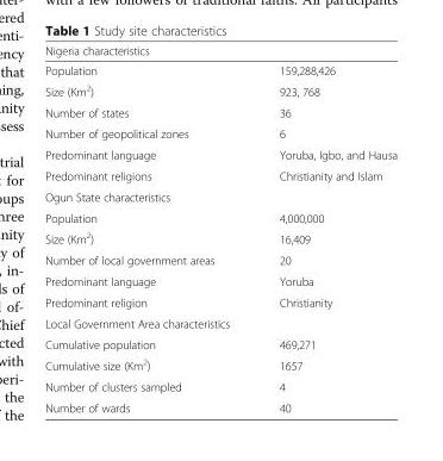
<table><thead><tr><td colspan="2">Nigeria characteristics</td></tr><tr><td>Population</td><td>159,288,426</td></tr></thead><tbody><tr><td>Size (Km<sup>2</sup>)</td><td>923, 768</td></tr><tr><td>Number of states</td><td>36</td></tr><tr><td>Number of geopolitical zones</td><td>6</td></tr><tr><td>Predominant language</td><td>Yoruba, Igbo, and Hausa</td></tr><tr><td>Predominant religions</td><td>Christianity and Islam</td></tr><tr><td colspan="2">Ogun State characteristics</td></tr><tr><td>Population</td><td>4,000,000</td></tr><tr><td>Size (Km<sup>2</sup>)</td><td>16,409</td></tr><tr><td>Number of local government areas</td><td>20</td></tr><tr><td>Predominant language</td><td>Yoruba</td></tr><tr><td>Predominant religion</td><td>Christianity</td></tr><tr><td colspan="2">Local Government Area characteristics</td></tr><tr><td>Cumulative population</td><td>469,271</td></tr><tr><td>Cumulative size (Km<sup>2</sup>)</td><td>1657</td></tr><tr><td>Number of clusters sampled</td><td>4</td></tr><tr><td>Number of wards</td><td>40</td></tr></tbody></table>